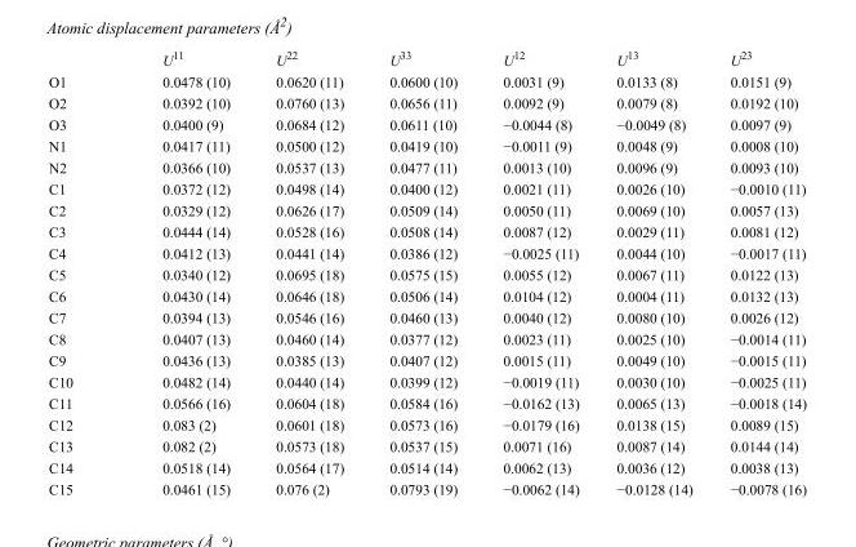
<table><thead><tr><td></td><td>U<sup>11</sup></td><td>U<sup>22</sup></td><td>U<sup>33</sup></td><td>U<sup>12</sup></td><td>U<sup>13</sup></td><td>U<sup>23</sup></td></tr></thead><tbody><tr><td>O1</td><td>0.0478 (10)</td><td>0.0620 (11)</td><td>0.0600 (10)</td><td>0.0031 (9)</td><td>0.0133 (8)</td><td>0.0151 (9)</td></tr><tr><td>O2</td><td>0.0392 (10)</td><td>0.0760 (13)</td><td>0.0656 (11)</td><td>0.0092 (9)</td><td>0.0079 (8)</td><td>0.0192 (10)</td></tr><tr><td>O3</td><td>0.0400 (9)</td><td>0.0684 (12)</td><td>0.0611 (10)</td><td>−0.0044 (8)</td><td>−0.0049 (8)</td><td>0.0097 (9)</td></tr><tr><td>N1</td><td>0.0417 (11)</td><td>0.0500 (12)</td><td>0.0419 (10)</td><td>−0.0011 (9)</td><td>0.0048 (9)</td><td>0.0008 (10)</td></tr><tr><td>N2</td><td>0.0366 (10)</td><td>0.0537 (13)</td><td>0.0477 (11)</td><td>0.0013 (10)</td><td>0.0096 (9)</td><td>0.0093 (10)</td></tr><tr><td>C1</td><td>0.0372 (12)</td><td>0.0498 (14)</td><td>0.0400 (12)</td><td>0.0021 (11)</td><td>0.0026 (10)</td><td>−0.0010 (11)</td></tr><tr><td>C2</td><td>0.0329 (12)</td><td>0.0626 (17)</td><td>0.0509 (14)</td><td>0.0050 (11)</td><td>0.0069 (10)</td><td>0.0057 (13)</td></tr><tr><td>C3</td><td>0.0444 (14)</td><td>0.0528 (16)</td><td>0.0508 (14)</td><td>0.0087 (12)</td><td>0.0029 (11)</td><td>0.0081 (12)</td></tr><tr><td>C4</td><td>0.0412 (13)</td><td>0.0441 (14)</td><td>0.0386 (12)</td><td>−0.0025 (11)</td><td>0.0044 (10)</td><td>−0.0017 (11)</td></tr><tr><td>C5</td><td>0.0340 (12)</td><td>0.0695 (18)</td><td>0.0575 (15)</td><td>0.0055 (12)</td><td>0.0067 (11)</td><td>0.0122 (13)</td></tr><tr><td>C6</td><td>0.0430 (14)</td><td>0.0646 (18)</td><td>0.0506 (14)</td><td>0.0104 (12)</td><td>0.0004 (11)</td><td>0.0132 (13)</td></tr><tr><td>C7</td><td>0.0394 (13)</td><td>0.0546 (16)</td><td>0.0460 (13)</td><td>0.0040 (12)</td><td>0.0080 (10)</td><td>0.0026 (12)</td></tr><tr><td>C8</td><td>0.0407 (13)</td><td>0.0460 (14)</td><td>0.0377 (12)</td><td>0.0023 (11)</td><td>0.0025 (10)</td><td>−0.0014 (11)</td></tr><tr><td>C9</td><td>0.0436 (13)</td><td>0.0385 (13)</td><td>0.0407 (12)</td><td>0.0015 (11)</td><td>0.0049 (10)</td><td>−0.0015 (11)</td></tr><tr><td>C10</td><td>0.0482 (14)</td><td>0.0440 (14)</td><td>0.0399 (12)</td><td>−0.0019 (11)</td><td>0.0030 (10)</td><td>−0.0025 (11)</td></tr><tr><td>C11</td><td>0.0566 (16)</td><td>0.0604 (18)</td><td>0.0584 (16)</td><td>−0.0162 (13)</td><td>0.0065 (13)</td><td>−0.0018 (14)</td></tr><tr><td>C12</td><td>0.083 (2)</td><td>0.0601 (18)</td><td>0.0573 (16)</td><td>−0.0179 (16)</td><td>0.0138 (15)</td><td>0.0089 (15)</td></tr><tr><td>C13</td><td>0.082 (2)</td><td>0.0573 (18)</td><td>0.0537 (15)</td><td>0.0071 (16)</td><td>0.0087 (14)</td><td>0.0144 (14)</td></tr><tr><td>C14</td><td>0.0518 (14)</td><td>0.0564 (17)</td><td>0.0514 (14)</td><td>0.0062 (13)</td><td>0.0036 (12)</td><td>0.0038 (13)</td></tr><tr><td>C15</td><td>0.0461 (15)</td><td>0.076 (2)</td><td>0.0793 (19)</td><td>−0.0062 (14)</td><td>−0.0128 (14)</td><td>−0.0078 (16)</td></tr></tbody></table>